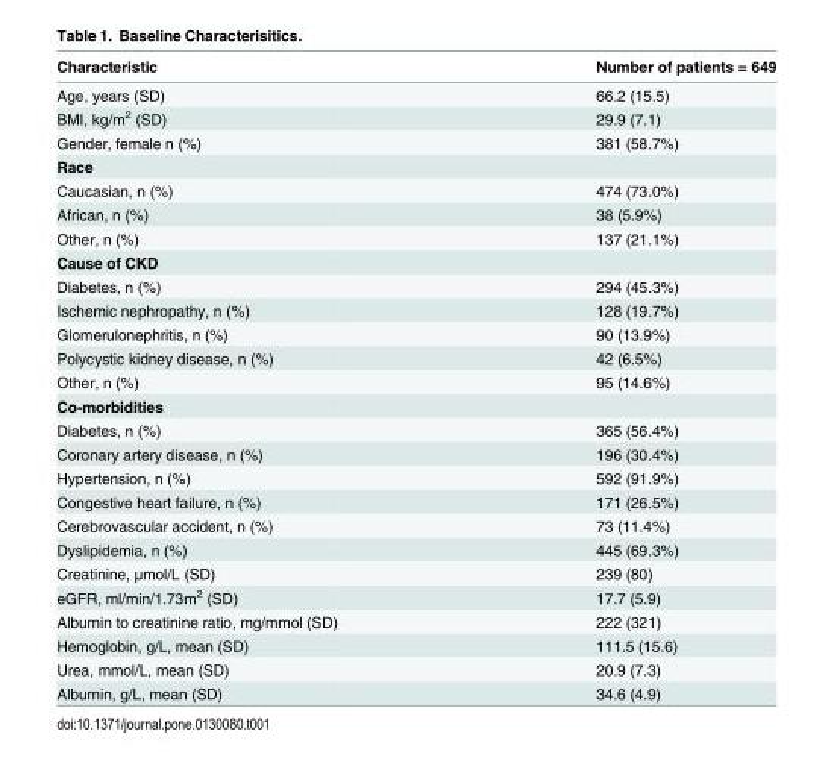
<table><thead><tr><td>Characteristic</td><td>Number of patients = 649</td></tr></thead><tbody><tr><td>Age, years (SD)</td><td>66.2 (15.5)</td></tr><tr><td>BMI, kg/m<sup>2</sup> (SD)</td><td>29.9 (7.1)</td></tr><tr><td>Gender, female n (%)</td><td>381 (58.7%)</td></tr><tr><td colspan="2">Race</td></tr><tr><td>Caucasian, n (%)</td><td>474 (73.0%)</td></tr><tr><td>African, n (%)</td><td>38 (5.9%)</td></tr><tr><td>Other, n (%)</td><td>137 (21.1%)</td></tr><tr><td colspan="2">Cause of CKD</td></tr><tr><td>Diabetes, n (%)</td><td>294 (45.3%)</td></tr><tr><td>Ischemic nephropathy, n (%)</td><td>128 (19.7%)</td></tr><tr><td>Glomerulonephritis, n (%)</td><td>90 (13.9%)</td></tr><tr><td>Polycystic kidney disease, n (%)</td><td>42 (6.5%)</td></tr><tr><td>Other, n (%)</td><td>95 (14.6%)</td></tr><tr><td colspan="2">Co-morbidities</td></tr><tr><td>Diabetes, n (%)</td><td>365 (56.4%)</td></tr><tr><td>Coronary artery disease, n (%)</td><td>196 (30.4%)</td></tr><tr><td>Hypertension, n (%)</td><td>592 (91.9%)</td></tr><tr><td>Congestive heart failure, n (%)</td><td>171 (26.5%)</td></tr><tr><td>Cerebrovascular accident, n (%)</td><td>73 (11.4%)</td></tr><tr><td>Dyslipidemia, n (%)</td><td>445 (69.3%)</td></tr><tr><td>Creatinine, μmol/L (SD)</td><td>239 (80)</td></tr><tr><td>eGFR, ml/min/1.73m<sup>2</sup> (SD)</td><td>17.7 (5.9)</td></tr><tr><td>Albumin to creatinine ratio, mg/mmol (SD)</td><td>222 (321)</td></tr><tr><td>Hemoglobin, g/L, mean (SD)</td><td>111.5 (15.6)</td></tr><tr><td>Urea, mmol/L, mean (SD)</td><td>20.9 (7.3)</td></tr><tr><td>Albumin, g/L, mean (SD)</td><td>34.6 (4.9)</td></tr></tbody></table>